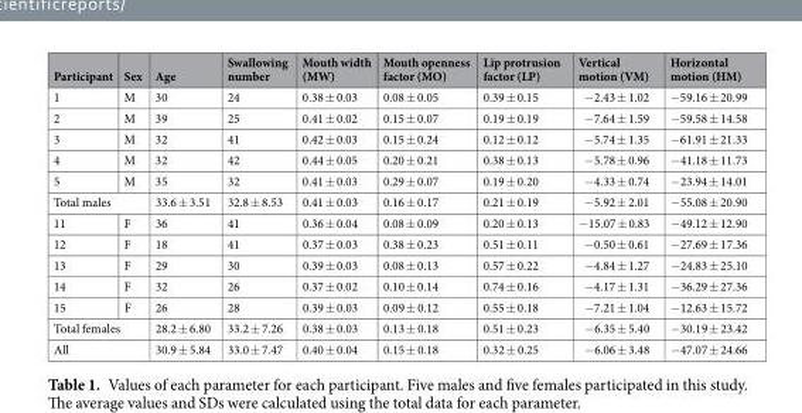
<table><thead><tr><td>Participant</td><td>Sex</td><td>Age</td><td>Swallowing number</td><td>Mouth width (MW)</td><td>Mouth openness factor (MO)</td><td>Lip protrusion factor (LP)</td><td>Vertical motion (VM)</td><td>Horizontal motion (HM)</td></tr></thead><tbody><tr><td>1</td><td>M</td><td>30</td><td>24</td><td>0.38 ± 0.03</td><td>0.08 ± 0.05</td><td>0.39 ± 0.15</td><td>−2.43 ± 1.02</td><td>−59.16 ± 20.99</td></tr><tr><td>2</td><td>M</td><td>39</td><td>25</td><td>0.41 ± 0.02</td><td>0.15 ± 0.07</td><td>0.19 ± 0.19</td><td>−7.64 ± 1.59</td><td>−59.58 ± 14.58</td></tr><tr><td>3</td><td>M</td><td>32</td><td>41</td><td>0.42 ± 0.03</td><td>0.15 ± 0.24</td><td>0.12 ± 0.12</td><td>−5.74 ± 1.35</td><td>−61.91 ± 21.33</td></tr><tr><td>4</td><td>M</td><td>32</td><td>42</td><td>0.44 ± 0.05</td><td>0.20 ± 0.21</td><td>0.38 ± 0.13</td><td>−5.78 ± 0.96</td><td>−41.18 ± 11.73</td></tr><tr><td>5</td><td>M</td><td>35</td><td>32</td><td>0.41 ± 0.03</td><td>0.29 ± 0.07</td><td>0.19 ± 0.20</td><td>−4.33 ± 0.74</td><td>−23.94 ± 14.01</td></tr><tr><td colspan="2">Total males</td><td>33.6 ± 3.51</td><td>32.8 ± 8.53</td><td>0.41 ± 0.03</td><td>0.16 ± 0.17</td><td>0.21 ± 0.19</td><td>−5.92 ± 2.01</td><td>−55.08 ± 20.90</td></tr><tr><td>11</td><td>F</td><td>36</td><td>41</td><td>0.36 ± 0.04</td><td>0.08 ± 0.09</td><td>0.20 ± 0.13</td><td>−15.07 ± 0.83</td><td>−49.12 ± 12.90</td></tr><tr><td>12</td><td>F</td><td>18</td><td>41</td><td>0.37 ± 0.03</td><td>0.38 ± 0.23</td><td>0.51 ± 0.11</td><td>−0.50 ± 0.61</td><td>−27.69 ± 17.36</td></tr><tr><td>13</td><td>F</td><td>29</td><td>30</td><td>0.39 ± 0.03</td><td>0.08 ± 0.13</td><td>0.57 ± 0.22</td><td>−4.84 ± 1.27</td><td>−24.83 ± 25.10</td></tr><tr><td>14</td><td>F</td><td>32</td><td>26</td><td>0.37 ± 0.02</td><td>0.10 ± 0.14</td><td>0.74 ± 0.16</td><td>−4.17 ± 1.31</td><td>−36.29 ± 27.36</td></tr><tr><td>15</td><td>F</td><td>26</td><td>28</td><td>0.39 ± 0.03</td><td>0.09 ± 0.12</td><td>0.55 ± 0.18</td><td>−7.21 ± 1.04</td><td>−12.63 ± 15.72</td></tr><tr><td colspan="2">Total females</td><td>28.2 ± 6.80</td><td>33.2 ± 7.26</td><td>0.38 ± 0.03</td><td>0.13 ± 0.18</td><td>0.51 ± 0.23</td><td>−6.35 ± 5.40</td><td>−30.19 ± 23.42</td></tr><tr><td colspan="2">All</td><td>30.9 ± 5.84</td><td>33.0 ± 7.47</td><td>0.40 ± 0.04</td><td>0.15 ± 0.18</td><td>0.32 ± 0.25</td><td>−6.06 ± 3.48</td><td>−47.07 ± 24.66</td></tr></tbody></table>